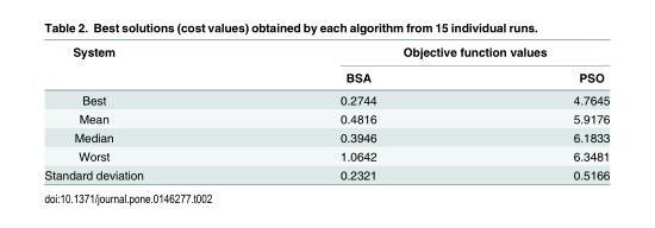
<table><thead><tr><td rowspan="2">System</td><td colspan="2">Objective function values</td></tr><tr><td>BSA</td><td>PSO</td></tr></thead><tbody><tr><td>Best</td><td>0.2744</td><td>4.7645</td></tr><tr><td>Mean</td><td>0.4816</td><td>5.9176</td></tr><tr><td>Median</td><td>0.3946</td><td>6.1833</td></tr><tr><td>Worst</td><td>1.0642</td><td>6.3481</td></tr><tr><td>Standard deviation</td><td>0.2321</td><td>0.5166</td></tr></tbody></table>